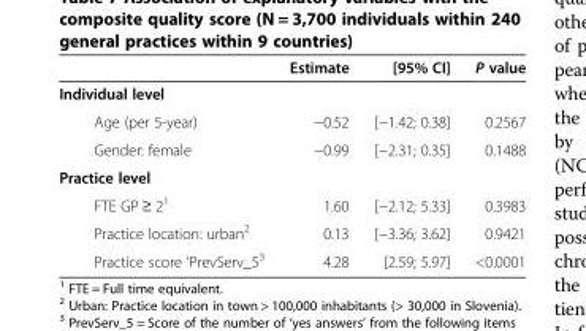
<table><thead><tr><td></td><td>Estimate</td><td>[95% CI]</td><td>P value</td></tr></thead><tbody><tr><td colspan="4">Individual level</td></tr><tr><td>Age (per 5-year)</td><td>−0.52</td><td>[−1.42; 0.38]</td><td>0.2567</td></tr><tr><td>Gender: female</td><td>−0.99</td><td>[−2.31; 0.35]</td><td>0.1488</td></tr><tr><td colspan="4">Practice level</td></tr><tr><td>FTE GP ≥ 2<sup>1</sup></td><td>1.60</td><td>[−2.12; 5.33]</td><td>0.3983</td></tr><tr><td>Practice location: urban<sup>2</sup></td><td>0.13</td><td>[−3.36; 3.62]</td><td>0.9421</td></tr><tr><td>Practice score ‘PrevServ_5<sup>3</sup></td><td>4.28</td><td>[2.59; 5.97]</td><td>&lt;0.0001</td></tr></tbody></table>